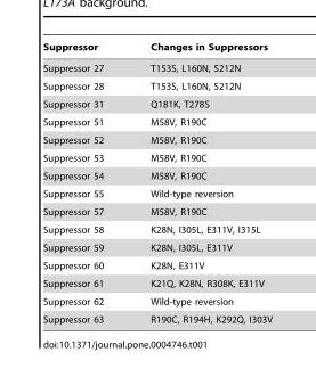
<table><thead><tr><td>Suppressor</td><td>Changes in Suppressors</td></tr></thead><tbody><tr><td>Suppressor 27</td><td>T153S, L160N, S212N</td></tr><tr><td>Suppressor 28</td><td>T153S, L160N, S212N</td></tr><tr><td>Suppressor 31</td><td>Q181K, T278S</td></tr><tr><td>Suppressor 51</td><td>M58V, R190C</td></tr><tr><td>Suppressor 52</td><td>M58V, R190C</td></tr><tr><td>Suppressor 53</td><td>M58V, R190C</td></tr><tr><td>Suppressor 54</td><td>M58V, R190C</td></tr><tr><td>Suppressor 55</td><td>Wild-type reversion</td></tr><tr><td>Suppressor 57</td><td>M58V, R190C</td></tr><tr><td>Suppressor 58</td><td>K28N, I305L, E311V, I315L</td></tr><tr><td>Suppressor 59</td><td>K28N, I305L, E311V</td></tr><tr><td>Suppressor 60</td><td>K28N, E311V</td></tr><tr><td>Suppressor 61</td><td>K21Q, K28N, R308K, E311V</td></tr><tr><td>Suppressor 62</td><td>Wild-type reversion</td></tr><tr><td>Suppressor 63</td><td>R190C, R194H, K292Q, I303V</td></tr></tbody></table>